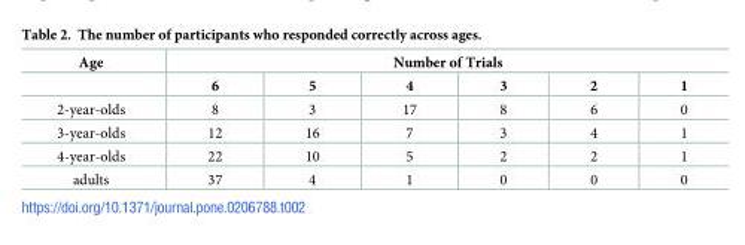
<table><thead><tr><td rowspan="2">Age</td><td colspan="6">Number of Trials</td></tr><tr><td>6</td><td>5</td><td>4</td><td>3</td><td>2</td><td>1</td></tr></thead><tbody><tr><td>2-year-olds</td><td>8</td><td>3</td><td>17</td><td>8</td><td>6</td><td>0</td></tr><tr><td>3-year-olds</td><td>12</td><td>16</td><td>7</td><td>3</td><td>4</td><td>1</td></tr><tr><td>4-year-olds</td><td>22</td><td>10</td><td>5</td><td>2</td><td>2</td><td>1</td></tr><tr><td>adults</td><td>37</td><td>4</td><td>1</td><td>0</td><td>0</td><td>0</td></tr></tbody></table>